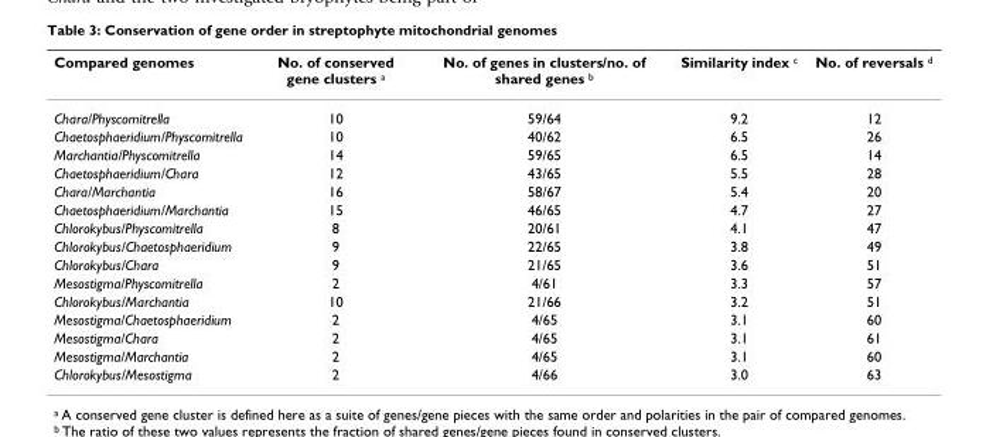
<table><thead><tr><td>Compared genomes</td><td>No. of conserved gene clusters a</td><td>No. of genes in clusters/no. of shared genes b</td><td>Similarity index c</td><td>No. of reversals d</td></tr></thead><tbody><tr><td>Chara/Physcomitrella</td><td>10</td><td>59/64</td><td>9.2</td><td>12</td></tr><tr><td>Chaetosphaeridium/Physcomitrella</td><td>10</td><td>40/62</td><td>6.5</td><td>26</td></tr><tr><td>Marchantia/Physcomitrella</td><td>14</td><td>59/65</td><td>6.5</td><td>14</td></tr><tr><td>Chaetosphaeridium/Chara</td><td>12</td><td>43/65</td><td>5.5</td><td>28</td></tr><tr><td>Chara/Marchantia</td><td>16</td><td>58/67</td><td>5.4</td><td>20</td></tr><tr><td>Chaetosphaeridium/Marchantia</td><td>15</td><td>46/65</td><td>4.7</td><td>27</td></tr><tr><td>Chlorokybus/Physcomitrella</td><td>8</td><td>20/61</td><td>4.1</td><td>47</td></tr><tr><td>Chlorokybus/Chaetosphaeridium</td><td>9</td><td>22/65</td><td>3.8</td><td>49</td></tr><tr><td>Chlorokybus/Chara</td><td>9</td><td>21/65</td><td>3.6</td><td>51</td></tr><tr><td>Mesostigma/Physcomitrella</td><td>2</td><td>4/61</td><td>3.3</td><td>57</td></tr><tr><td>Chlorokybus/Marchantia</td><td>10</td><td>21/66</td><td>3.2</td><td>51</td></tr><tr><td>Mesostigma/Chaetosphaeridium</td><td>2</td><td>4/65</td><td>3.1</td><td>60</td></tr><tr><td>Mesostigma/Chara</td><td>2</td><td>4/65</td><td>3.1</td><td>61</td></tr><tr><td>Mesostigma/Marchantia</td><td>2</td><td>4/65</td><td>3.1</td><td>60</td></tr><tr><td>Chlorokybus/Mesostigma</td><td>2</td><td>4/66</td><td>3.0</td><td>63</td></tr></tbody></table>